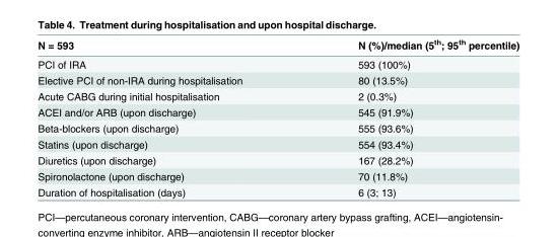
<table><thead><tr><td>N = 593</td><td>N (%)/median (5<sup>th</sup>; 95<sup>th</sup> percentile)</td></tr></thead><tbody><tr><td>PCI of IRA</td><td>593 (100%)</td></tr><tr><td>Elective PCI of non-IRA during hospitalisation</td><td>80 (13.5%)</td></tr><tr><td>Acute CABG during initial hospitalisation</td><td>2 (0.3%)</td></tr><tr><td>ACEI and/or ARB (upon discharge)</td><td>545 (91.9%)</td></tr><tr><td>Beta-blockers (upon discharge)</td><td>555 (93.6%)</td></tr><tr><td>Statins (upon discharge)</td><td>554 (93.4%)</td></tr><tr><td>Diuretics (upon discharge)</td><td>167 (28.2%)</td></tr><tr><td>Spironolactone (upon discharge)</td><td>70 (11.8%)</td></tr><tr><td>Duration of hospitalisation (days)</td><td>6 (3; 13)</td></tr></tbody></table>